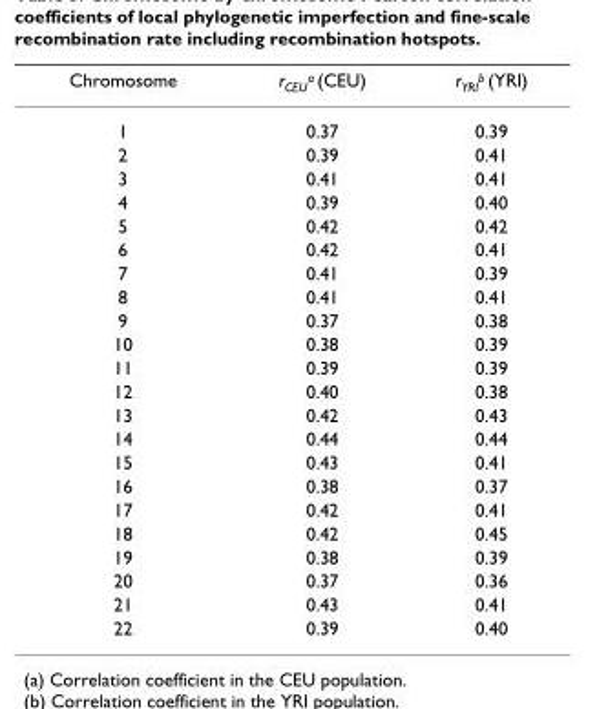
<table><thead><tr><td>Chromosome</td><td>r<sub>CEU</sub><sup>a</sup> (CEU)</td><td>r<sub>YRI</sub><sup>b</sup> (YRI)</td></tr></thead><tbody><tr><td>1</td><td>0.37</td><td>0.39</td></tr><tr><td>2</td><td>0.39</td><td>0.41</td></tr><tr><td>3</td><td>0.41</td><td>0.41</td></tr><tr><td>4</td><td>0.39</td><td>0.40</td></tr><tr><td>5</td><td>0.42</td><td>0.42</td></tr><tr><td>6</td><td>0.42</td><td>0.41</td></tr><tr><td>7</td><td>0.41</td><td>0.39</td></tr><tr><td>8</td><td>0.41</td><td>0.41</td></tr><tr><td>9</td><td>0.37</td><td>0.38</td></tr><tr><td>10</td><td>0.38</td><td>0.39</td></tr><tr><td>11</td><td>0.39</td><td>0.39</td></tr><tr><td>12</td><td>0.40</td><td>0.38</td></tr><tr><td>13</td><td>0.42</td><td>0.43</td></tr><tr><td>14</td><td>0.44</td><td>0.44</td></tr><tr><td>15</td><td>0.43</td><td>0.41</td></tr><tr><td>16</td><td>0.38</td><td>0.37</td></tr><tr><td>17</td><td>0.42</td><td>0.41</td></tr><tr><td>18</td><td>0.42</td><td>0.45</td></tr><tr><td>19</td><td>0.38</td><td>0.39</td></tr><tr><td>20</td><td>0.37</td><td>0.36</td></tr><tr><td>21</td><td>0.43</td><td>0.41</td></tr><tr><td>22</td><td>0.39</td><td>0.40</td></tr></tbody></table>